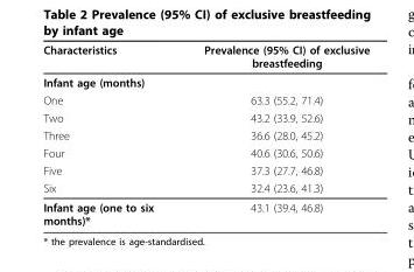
<table><thead><tr><td>Characteristics</td><td>Prevalence (95% CI) of exclusive breastfeeding</td></tr></thead><tbody><tr><td colspan="2">Infant age (months)</td></tr><tr><td>One</td><td>63.3 (55.2, 71.4)</td></tr><tr><td>Two</td><td>43.2 (33.9, 52.6)</td></tr><tr><td>Three</td><td>36.6 (28.0, 45.2)</td></tr><tr><td>Four</td><td>40.6 (30.6, 50.6)</td></tr><tr><td>Five</td><td>37.3 (27.7, 46.8)</td></tr><tr><td>Six</td><td>32.4 (23.6, 41.3)</td></tr><tr><td>Infant age (one to six months)*</td><td>43.1 (39.4, 46.8)</td></tr></tbody></table>